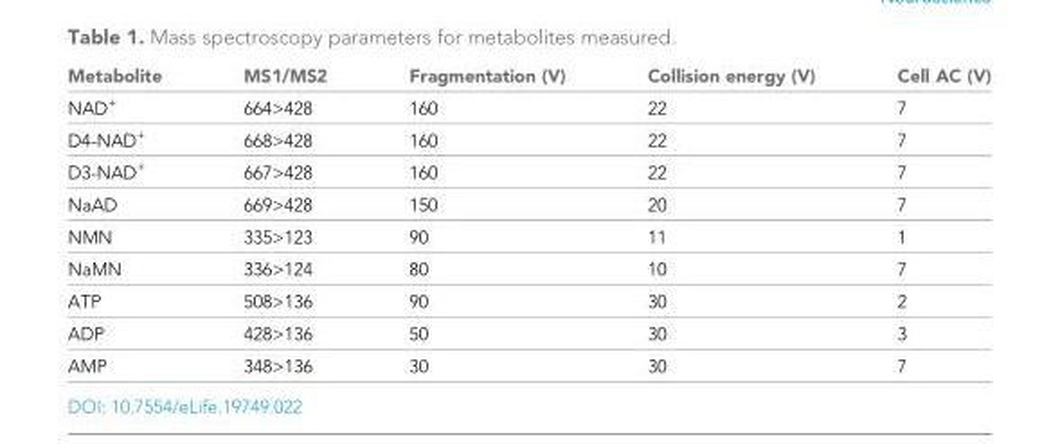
<table><thead><tr><td>Metabolite</td><td>MS1/MS2</td><td>Fragmentation (V)</td><td>Collision energy (V)</td><td>Cell AC (V)</td></tr></thead><tbody><tr><td>NAD<sup>+</sup></td><td>664&gt;428</td><td>160</td><td>22</td><td>7</td></tr><tr><td>D4-NAD<sup>+</sup></td><td>668&gt;428</td><td>160</td><td>22</td><td>7</td></tr><tr><td>D3-NAD<sup>+</sup></td><td>667&gt;428</td><td>160</td><td>22</td><td>7</td></tr><tr><td>NaAD</td><td>669&gt;428</td><td>150</td><td>20</td><td>7</td></tr><tr><td>NMN</td><td>335&gt;123</td><td>90</td><td>11</td><td>1</td></tr><tr><td>NaMN</td><td>336&gt;124</td><td>80</td><td>10</td><td>7</td></tr><tr><td>ATP</td><td>508&gt;136</td><td>90</td><td>30</td><td>2</td></tr><tr><td>ADP</td><td>428&gt;136</td><td>50</td><td>30</td><td>3</td></tr><tr><td>AMP</td><td>348&gt;136</td><td>30</td><td>30</td><td>7</td></tr></tbody></table>